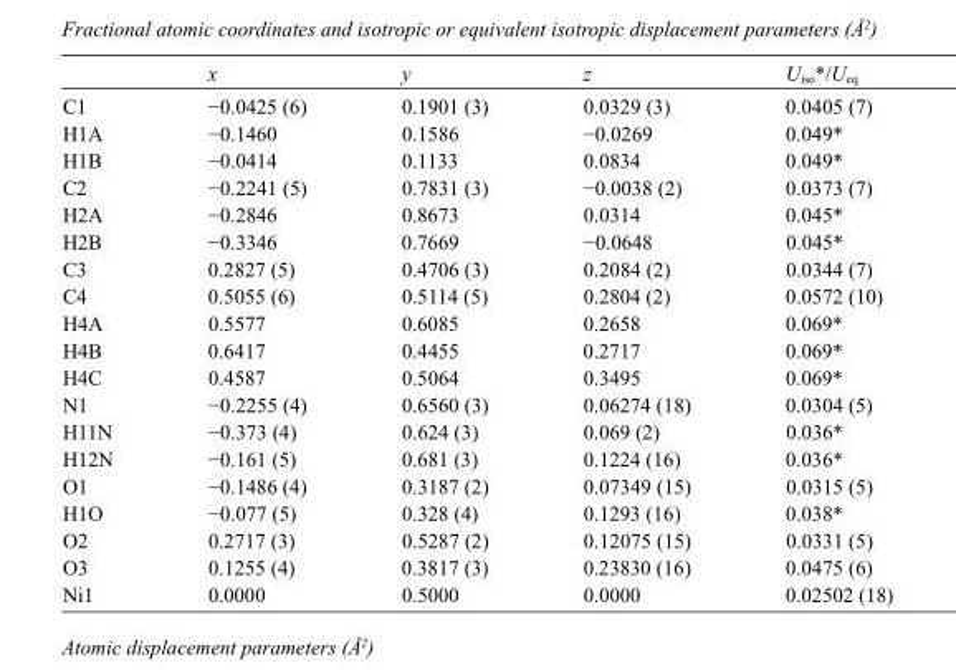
<table><thead><tr><td></td><td>x</td><td>y</td><td>z</td><td>U<sub>iso</sub>*/U<sub>eq</sub></td></tr></thead><tbody><tr><td>C1</td><td>−0.0425 (6)</td><td>0.1901 (3)</td><td>0.0329 (3)</td><td>0.0405 (7)</td></tr><tr><td>H1A</td><td>−0.1460</td><td>0.1586</td><td>−0.0269</td><td>0.049*</td></tr><tr><td>H1B</td><td>−0.0414</td><td>0.1133</td><td>0.0834</td><td>0.049*</td></tr><tr><td>C2</td><td>−0.2241 (5)</td><td>0.7831 (3)</td><td>−0.0038 (2)</td><td>0.0373 (7)</td></tr><tr><td>H2A</td><td>−0.2846</td><td>0.8673</td><td>0.0314</td><td>0.045*</td></tr><tr><td>H2B</td><td>−0.3346</td><td>0.7669</td><td>−0.0648</td><td>0.045*</td></tr><tr><td>C3</td><td>0.2827 (5)</td><td>0.4706 (3)</td><td>0.2084 (2)</td><td>0.0344 (7)</td></tr><tr><td>C4</td><td>0.5055 (6)</td><td>0.5114 (5)</td><td>0.2804 (2)</td><td>0.0572 (10)</td></tr><tr><td>H4A</td><td>0.5577</td><td>0.6085</td><td>0.2658</td><td>0.069*</td></tr><tr><td>H4B</td><td>0.6417</td><td>0.4455</td><td>0.2717</td><td>0.069*</td></tr><tr><td>H4C</td><td>0.4587</td><td>0.5064</td><td>0.3495</td><td>0.069*</td></tr><tr><td>N1</td><td>−0.2255 (4)</td><td>0.6560 (3)</td><td>0.06274 (18)</td><td>0.0304 (5)</td></tr><tr><td>H11N</td><td>−0.373 (4)</td><td>0.624 (3)</td><td>0.069 (2)</td><td>0.036*</td></tr><tr><td>H12N</td><td>−0.161 (5)</td><td>0.681 (3)</td><td>0.1224 (16)</td><td>0.036*</td></tr><tr><td>O1</td><td>−0.1486 (4)</td><td>0.3187 (2)</td><td>0.07349 (15)</td><td>0.0315 (5)</td></tr><tr><td>H1O</td><td>−0.077 (5)</td><td>0.328 (4)</td><td>0.1293 (16)</td><td>0.038*</td></tr><tr><td>O2</td><td>0.2717 (3)</td><td>0.5287 (2)</td><td>0.12075 (15)</td><td>0.0331 (5)</td></tr><tr><td>O3</td><td>0.1255 (4)</td><td>0.3817 (3)</td><td>0.23830 (16)</td><td>0.0475 (6)</td></tr><tr><td>Ni1</td><td>0.0000</td><td>0.5000</td><td>0.0000</td><td>0.02502 (18)</td></tr></tbody></table>